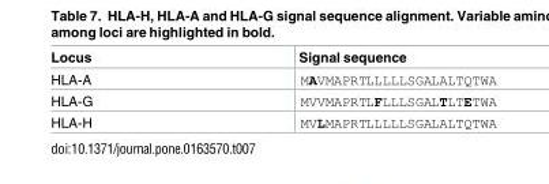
<table><thead><tr><td>Locus</td><td>Signal sequence</td></tr></thead><tbody><tr><td>HLA-A</td><td>MAVMAPRTLLLLLSGALALTQTWA</td></tr><tr><td>HLA-G</td><td>MVVMAPRTLFLLLSGALTLTETWA</td></tr><tr><td>HLA-H</td><td>MVLMAPRTLLLLLSGALALTQTWA</td></tr></tbody></table>